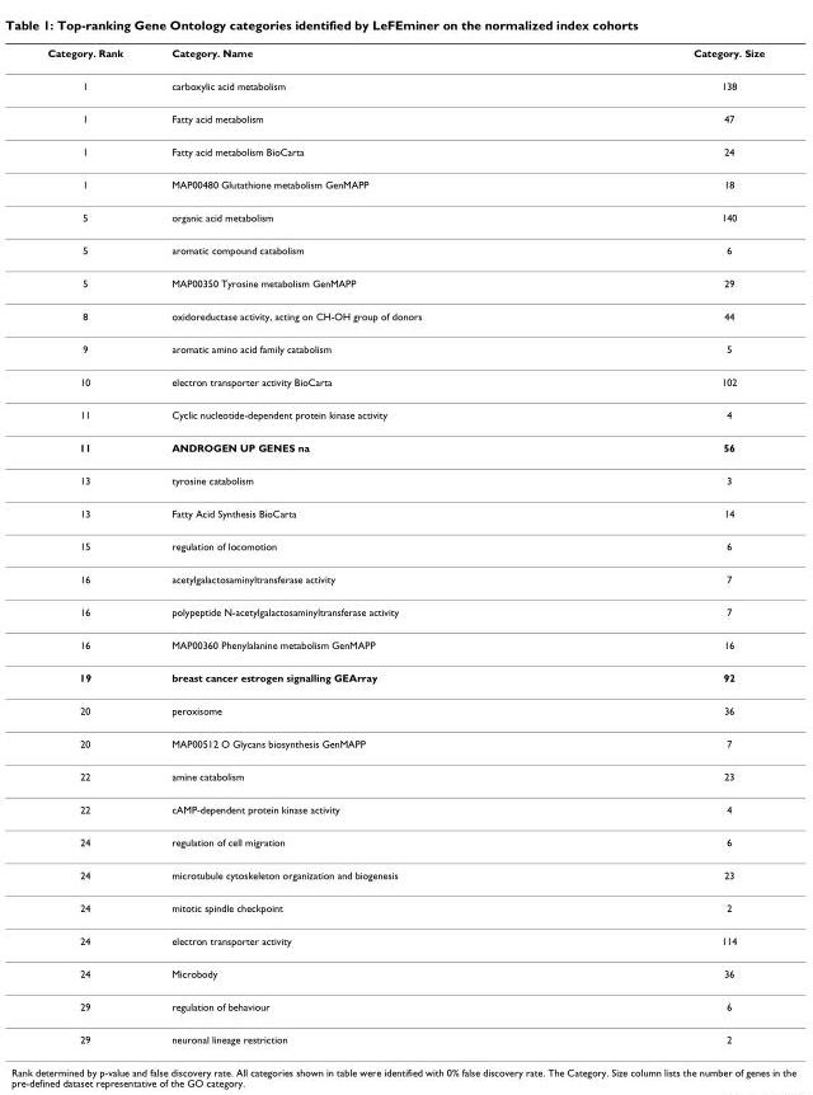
<table><thead><tr><td>Category. Rank</td><td>Category. Name</td><td>Category. Size</td></tr></thead><tbody><tr><td>1</td><td>carboxylic acid metabolism</td><td>138</td></tr><tr><td>1</td><td>Fatty acid metabolism</td><td>47</td></tr><tr><td>1</td><td>Fatty acid metabolism BioCarta</td><td>24</td></tr><tr><td>1</td><td>MAP00480 Glutathione metabolism GenMAPP</td><td>18</td></tr><tr><td>5</td><td>organic acid metabolism</td><td>140</td></tr><tr><td>5</td><td>aromatic compound catabolism</td><td>6</td></tr><tr><td>5</td><td>MAP00350 Tyrosine metabolism GenMAPP</td><td>29</td></tr><tr><td>8</td><td>oxidoreductase activity, acting on CH-OH group of donors</td><td>44</td></tr><tr><td>9</td><td>aromatic amino acid family catabolism</td><td>5</td></tr><tr><td>10</td><td>electron transporter activity BioCarta</td><td>102</td></tr><tr><td>11</td><td>Cyclic nucleotide-dependent protein kinase activity</td><td>4</td></tr><tr><td>11</td><td>ANDROGEN UP GENES na</td><td>56</td></tr><tr><td>13</td><td>tyrosine catabolism</td><td>3</td></tr><tr><td>13</td><td>Fatty Acid Synthesis BioCarta</td><td>14</td></tr><tr><td>15</td><td>regulation of locomotion</td><td>6</td></tr><tr><td>16</td><td>acetylgalactosaminyltransferase activity</td><td>7</td></tr><tr><td>16</td><td>polypeptide N-acetylgalactosaminyltransferase activity</td><td>7</td></tr><tr><td>16</td><td>MAP00360 Phenylalanine metabolism GenMAPP</td><td>16</td></tr><tr><td>19</td><td>breast cancer estrogen signalling GEArray</td><td>92</td></tr><tr><td>20</td><td>peroxisome</td><td>36</td></tr><tr><td>20</td><td>MAP00512 O Glycans biosynthesis GenMAPP</td><td>7</td></tr><tr><td>22</td><td>amine catabolism</td><td>23</td></tr><tr><td>22</td><td>cAMP-dependent protein kinase activity</td><td>4</td></tr><tr><td>24</td><td>regulation of cell migration</td><td>6</td></tr><tr><td>24</td><td>microtubule cytoskeleton organization and biogenesis</td><td>23</td></tr><tr><td>24</td><td>mitotic spindle checkpoint</td><td>2</td></tr><tr><td>24</td><td>electron transporter activity</td><td>114</td></tr><tr><td>24</td><td>Microbody</td><td>36</td></tr><tr><td>29</td><td>regulation of behaviour</td><td>6</td></tr><tr><td>29</td><td>neuronal lineage restriction</td><td>2</td></tr></tbody></table>